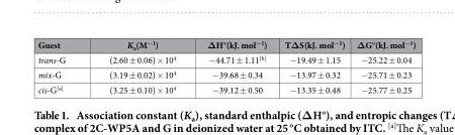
<table><thead><tr><td>Guest</td><td>K<sub>a</sub>(M<sup>−1</sup>)</td><td>ΔH°(kJ. mol<sup>−1</sup>)</td><td>TΔS(kJ. mol<sup>−1</sup>)</td><td>ΔG°(kJ. mol<sup>−1</sup>)</td></tr></thead><tbody><tr><td>trans-G</td><td>(2.60 ± 0.06) × 10<sup>4</sup></td><td>− 44.71 ± 1.11[b]</td><td>− 19.49 ± 1.15</td><td>− 25.22 ± 0.04</td></tr><tr><td>mix-G</td><td>(3.19 ± 0.02) × 10<sup>4</sup></td><td>− 39.68 ± 0.34</td><td>− 13.97 ± 0.32</td><td>− 25.71 ± 0.23</td></tr><tr><td>cis-G[a]</td><td>(3.25 ± 0.10) × 10<sup>4</sup></td><td>− 39.12 ± 0.50</td><td>− 13.35 ± 0.48</td><td>− 25.77 ± 0.25</td></tr></tbody></table>